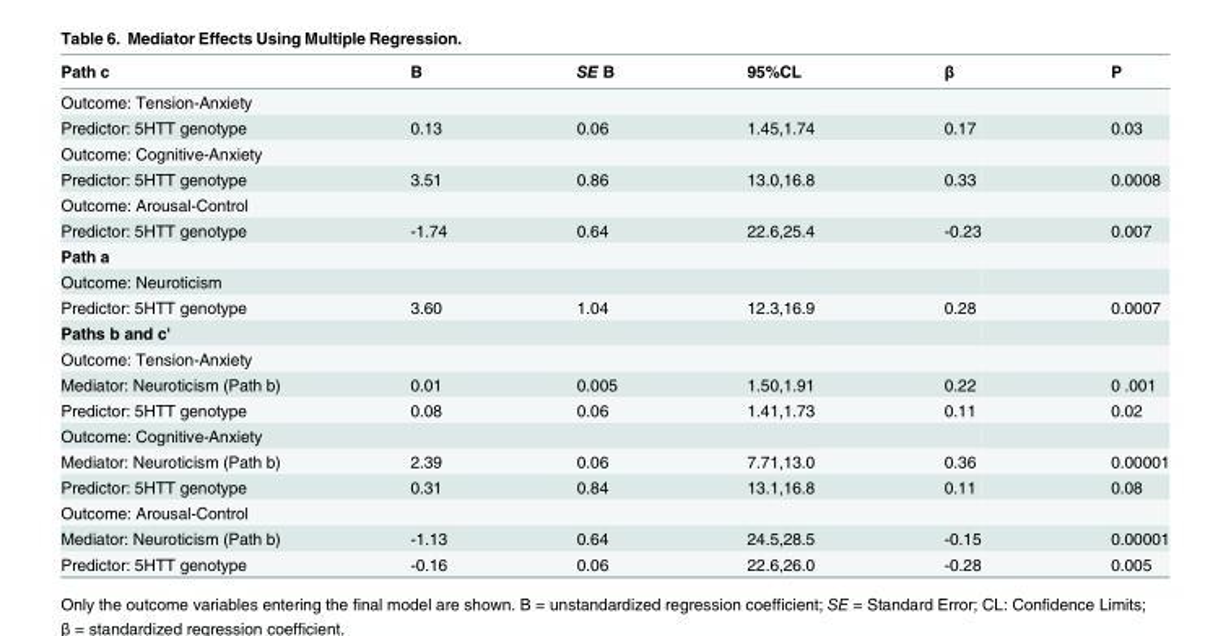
<table><thead><tr><td>Path c</td><td>B</td><td>SE B</td><td>95%CL</td><td>β</td><td>P</td></tr></thead><tbody><tr><td colspan="6">Outcome: Tension-Anxiety</td></tr><tr><td>Predictor: 5HTT genotype</td><td>0.13</td><td>0.06</td><td>1.45,1.74</td><td>0.17</td><td>0.03</td></tr><tr><td colspan="6">Outcome: Cognitive-Anxiety</td></tr><tr><td>Predictor: 5HTT genotype</td><td>3.51</td><td>0.86</td><td>13.0,16.8</td><td>0.33</td><td>0.0008</td></tr><tr><td colspan="6">Outcome: Arousal-Control</td></tr><tr><td>Predictor: 5HTT genotype</td><td>-1.74</td><td>0.64</td><td>22.6,25.4</td><td>-0.23</td><td>0.007</td></tr><tr><td colspan="6">Path a</td></tr><tr><td colspan="6">Outcome: Neuroticism</td></tr><tr><td>Predictor: 5HTT genotype</td><td>3.60</td><td>1.04</td><td>12.3,16.9</td><td>0.28</td><td>0.0007</td></tr><tr><td colspan="6">Paths b and c&#x27;</td></tr><tr><td colspan="6">Outcome: Tension-Anxiety</td></tr><tr><td>Mediator: Neuroticism (Path b)</td><td>0.01</td><td>0.005</td><td>1.50,1.91</td><td>0.22</td><td>0 .001</td></tr><tr><td>Predictor: 5HTT genotype</td><td>0.08</td><td>0.06</td><td>1.41,1.73</td><td>0.11</td><td>0.02</td></tr><tr><td colspan="6">Outcome: Cognitive-Anxiety</td></tr><tr><td>Mediator: Neuroticism (Path b)</td><td>2.39</td><td>0.06</td><td>7.71,13.0</td><td>0.36</td><td>0.00001</td></tr><tr><td>Predictor: 5HTT genotype</td><td>0.31</td><td>0.84</td><td>13.1,16.8</td><td>0.11</td><td>0.08</td></tr><tr><td colspan="6">Outcome: Arousal-Control</td></tr><tr><td>Mediator: Neuroticism (Path b)</td><td>-1.13</td><td>0.64</td><td>24.5,28.5</td><td>-0.15</td><td>0.00001</td></tr><tr><td>Predictor: 5HTT genotype</td><td>-0.16</td><td>0.06</td><td>22.6,26.0</td><td>-0.28</td><td>0.005</td></tr></tbody></table>